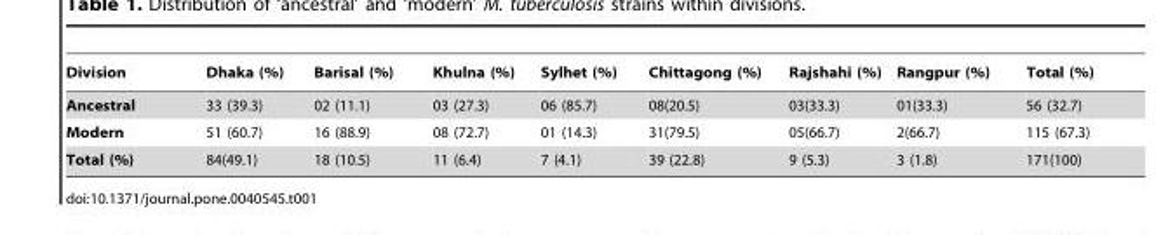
<table><thead><tr><td>Division</td><td>Dhaka (%)</td><td>Barisal (%)</td><td>Khulna (%)</td><td>Sylhet (%)</td><td>Chittagong (%)</td><td>Rajshahi (%)</td><td>Rangpur (%)</td><td>Total (%)</td></tr></thead><tbody><tr><td>Ancestral</td><td>33 (39.3)</td><td>02 (11.1)</td><td>03 (27.3)</td><td>06 (85.7)</td><td>08(20.5)</td><td>03(33.3)</td><td>01(33.3)</td><td>56 (32.7)</td></tr><tr><td>Modern</td><td>51 (60.7)</td><td>16 (88.9)</td><td>08 (72.7)</td><td>01 (14.3)</td><td>31(79.5)</td><td>05(66.7)</td><td>2(66.7)</td><td>115 (67.3)</td></tr><tr><td>Total (%)</td><td>84(49.1)</td><td>18 (10.5)</td><td>11 (6.4)</td><td>7 (4.1)</td><td>39 (22.8)</td><td>9 (5.3)</td><td>3 (1.8)</td><td>171(100)</td></tr></tbody></table>